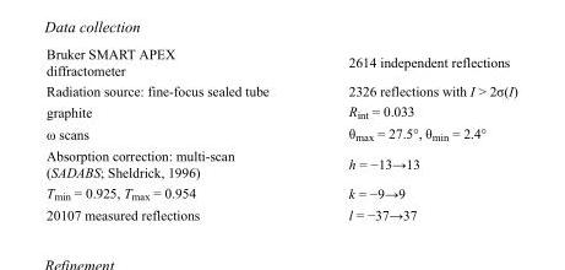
<table><tbody><tr><td>Bruker SMART APEX diffractometer</td><td>2614 independent reflections</td></tr><tr><td>Radiation source: fine-focus sealed tube</td><td>2326 reflections with I &gt; 2σ(I)</td></tr><tr><td>graphite</td><td>R<sub>int</sub> = 0.033</td></tr><tr><td>ω scans</td><td>θ<sub>max</sub> = 27.5°, θ<sub>min</sub> = 2.4°</td></tr><tr><td>Absorption correction: multi-scan (SADABS; Sheldrick, 1996)</td><td>h = −13→13</td></tr><tr><td>T<sub>min</sub> = 0.925, T<sub>max</sub> = 0.954</td><td>k = −9→9</td></tr><tr><td>20107 measured reflections</td><td>l = −37→37</td></tr></tbody></table>